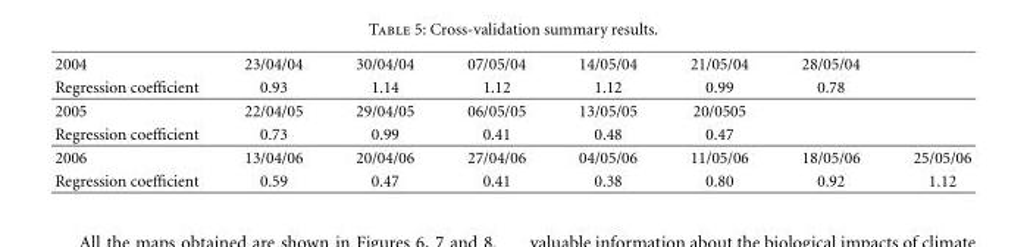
<table><tbody><tr><td>2004</td><td>23/04/04</td><td>30/04/04</td><td>07/05/04</td><td>14/05/04</td><td>21/05/04</td><td>28/05/04</td><td></td></tr><tr><td>Regression coefficient</td><td>0.93</td><td>1.14</td><td>1.12</td><td>1.12</td><td>0.99</td><td>0.78</td><td></td></tr><tr><td>2005</td><td>22/04/05</td><td>29/04/05</td><td>06/05/05</td><td>13/05/05</td><td>20/0505</td><td></td><td></td></tr><tr><td>Regression coefficient</td><td>0.73</td><td>0.99</td><td>0.41</td><td>0.48</td><td>0.47</td><td></td><td></td></tr><tr><td>2006</td><td>13/04/06</td><td>20/04/06</td><td>27/04/06</td><td>04/05/06</td><td>11/05/06</td><td>18/05/06</td><td>25/05/06</td></tr><tr><td>Regression coefficient</td><td>0.59</td><td>0.47</td><td>0.41</td><td>0.38</td><td>0.80</td><td>0.92</td><td>1.12</td></tr></tbody></table>